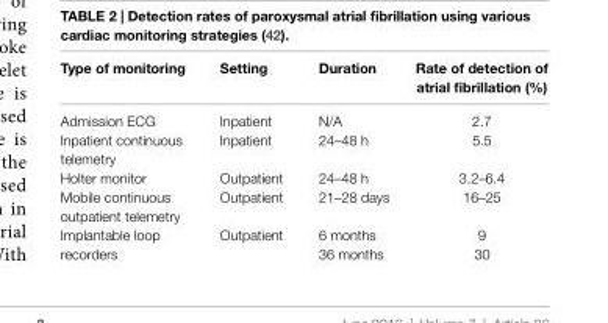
<table><thead><tr><td>Type of monitoring</td><td>Setting</td><td>Duration</td><td>Rate of detection of atrial fibrillation (%)</td></tr></thead><tbody><tr><td>Admission ECG</td><td>Inpatient</td><td>N/A</td><td>2.7</td></tr><tr><td>Inpatient continuous telemetry</td><td>Inpatient</td><td>24–48 h</td><td>5.5</td></tr><tr><td>Holter monitor</td><td>Outpatient</td><td>24–48 h</td><td>3.2–6.4</td></tr><tr><td>Mobile continuous outpatient telemetry</td><td>Outpatient</td><td>21–28 days</td><td>16–25</td></tr><tr><td rowspan="2">Implantable loop recorders</td><td rowspan="2">Outpatient</td><td>6 months</td><td>9</td></tr><tr><td>36 months</td><td>30</td></tr></tbody></table>